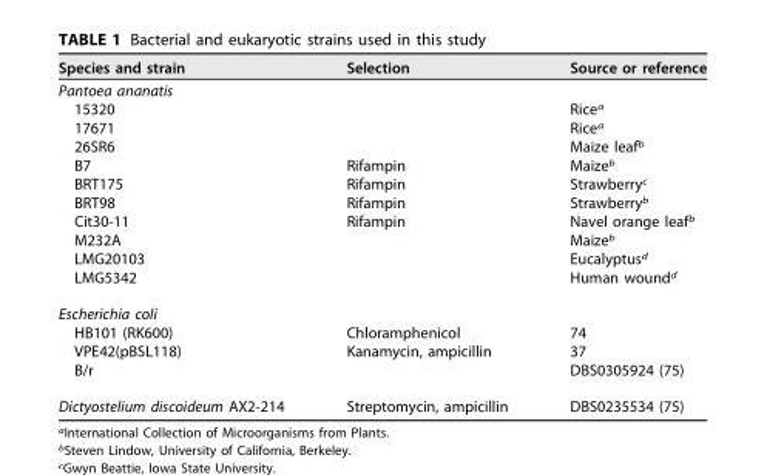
<table><thead><tr><td>Species and strain</td><td>Selection</td><td>Source or reference</td></tr></thead><tbody><tr><td colspan="3">Pantoea ananatis</td></tr><tr><td>15320</td><td></td><td>Rice<sup>a</sup></td></tr><tr><td>17671</td><td></td><td>Rice<sup>a</sup></td></tr><tr><td>26SR6</td><td></td><td>Maize leaf<sup>b</sup></td></tr><tr><td>B7</td><td>Rifampin</td><td>Maize<sup>b</sup></td></tr><tr><td>BRT175</td><td>Rifampin</td><td>Strawberry<sup>c</sup></td></tr><tr><td>BRT98</td><td>Rifampin</td><td>Strawberry<sup>b</sup></td></tr><tr><td>Cit30-11</td><td>Rifampin</td><td>Navel orange leaf<sup>b</sup></td></tr><tr><td>M232A</td><td></td><td>Maize<sup>b</sup></td></tr><tr><td>LMG20103</td><td></td><td>Eucalyptus<sup>d</sup></td></tr><tr><td>LMG5342</td><td></td><td>Human wound<sup>d</sup></td></tr><tr><td colspan="3">Escherichia coli</td></tr><tr><td>HB101 (RK600)</td><td>Chloramphenicol</td><td>74</td></tr><tr><td>VPE42(pBSL118)</td><td>Kanamycin, ampicillin</td><td>37</td></tr><tr><td>B/r</td><td></td><td>DBS0305924 (75)</td></tr><tr><td>Dictyostelium discoideum AX2-214</td><td>Streptomycin, ampicillin</td><td>DBS0235534 (75)</td></tr></tbody></table>